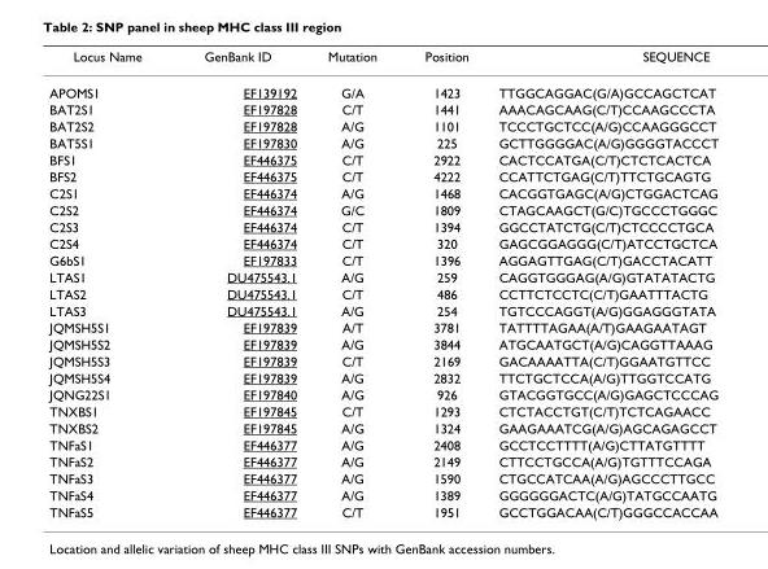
<table><thead><tr><td>Locus Name</td><td>GenBank ID</td><td>Mutation</td><td>Position</td><td>SEQUENCE</td></tr></thead><tbody><tr><td>APOMS1</td><td>EF139192</td><td>G/A</td><td>1423</td><td>TTGGCAGGAC(G/A)GCCAGCTCAT</td></tr><tr><td>BAT2S1</td><td>EF197828</td><td>C/T</td><td>1441</td><td>AAACAGCAAG(C/T)CCAAGCCCTA</td></tr><tr><td>BAT2S2</td><td>EF197828</td><td>A/G</td><td>1101</td><td>TCCCTGCTCC(A/G)CCAAGGGCCT</td></tr><tr><td>BAT5S1</td><td>EF197830</td><td>A/G</td><td>225</td><td>GCTTGGGGAC(A/G)GGGGTACCCT</td></tr><tr><td>BFS1</td><td>EF446375</td><td>C/T</td><td>2922</td><td>CACTCCATGA(C/T)CTCTCACTCA</td></tr><tr><td>BFS2</td><td>EF446375</td><td>C/T</td><td>4222</td><td>CCATTCTGAG(C/T)TTCTGCAGTG</td></tr><tr><td>C2S1</td><td>EF446374</td><td>A/G</td><td>1468</td><td>CACGGTGAGC(A/G)CTGGACTCAG</td></tr><tr><td>C2S2</td><td>EF446374</td><td>G/C</td><td>1809</td><td>CTAGCAAGCT(G/C)TGCCCTGGGC</td></tr><tr><td>C2S3</td><td>EF446374</td><td>C/T</td><td>1394</td><td>GGCCTATCTG(C/T)CTCCCCTGCA</td></tr><tr><td>C2S4</td><td>EF446374</td><td>C/T</td><td>320</td><td>GAGCGGAGGG(C/T)ATCCTGCTCA</td></tr><tr><td>G6bS1</td><td>EF197833</td><td>C/T</td><td>1396</td><td>AGGAGTTGAG(C/T)GACCTACATT</td></tr><tr><td>LTAS1</td><td>DU475543.1</td><td>A/G</td><td>259</td><td>CAGGTGGGAG(A/G)GTATATACTG</td></tr><tr><td>LTAS2</td><td>DU475543.1</td><td>C/T</td><td>486</td><td>CCTTCTCCTC(C/T)GAATTTACTG</td></tr><tr><td>LTAS3</td><td>DU475543.1</td><td>A/G</td><td>254</td><td>TGTCCCAGGT(A/G)GGAGGGTATA</td></tr><tr><td>JQMSH5S1</td><td>EF197839</td><td>A/T</td><td>3781</td><td>TATTTTAGAA(A/T)GAAGAATAGT</td></tr><tr><td>JQMSH5S2</td><td>EF197839</td><td>A/G</td><td>3844</td><td>ATGCAATGCT(A/G)CAGGTTAAAG</td></tr><tr><td>JQMSH5S3</td><td>EF197839</td><td>C/T</td><td>2169</td><td>GACAAAATTA(C/T)GGAATGTTCC</td></tr><tr><td>JQMSH5S4</td><td>EF197839</td><td>A/G</td><td>2832</td><td>TTCTGCTCCA(A/G)TTGGTCCATG</td></tr><tr><td>JQNG22S1</td><td>EF197840</td><td>A/G</td><td>926</td><td>GTACGGTGCC(A/G)GAGCTCCCAG</td></tr><tr><td>TNXBS1</td><td>EF197845</td><td>C/T</td><td>1293</td><td>CTCTACCTGT(C/T)TCTCAGAACC</td></tr><tr><td>TNXBS2</td><td>EF197845</td><td>A/G</td><td>1324</td><td>GAAGAAATCG(A/G)AGCAGAGCCT</td></tr><tr><td>TNFaS1</td><td>EF446377</td><td>A/G</td><td>2408</td><td>GCCTCCTTTT(A/G)CTTATGTTTT</td></tr><tr><td>TNFaS2</td><td>EF446377</td><td>A/G</td><td>2149</td><td>CTTCCTGCCA(A/G)TGTTTCCAGA</td></tr><tr><td>TNFaS3</td><td>EF446377</td><td>A/G</td><td>1590</td><td>CTGCCATCAA(A/G)AGCCCTTGCC</td></tr><tr><td>TNFaS4</td><td>EF446377</td><td>A/G</td><td>1389</td><td>GGGGGGACTC(A/G)TATGCCAATG</td></tr><tr><td>TNFaS5</td><td>EF446377</td><td>C/T</td><td>1951</td><td>GCCTGGACAA(C/T)GGGCCACCAA</td></tr></tbody></table>